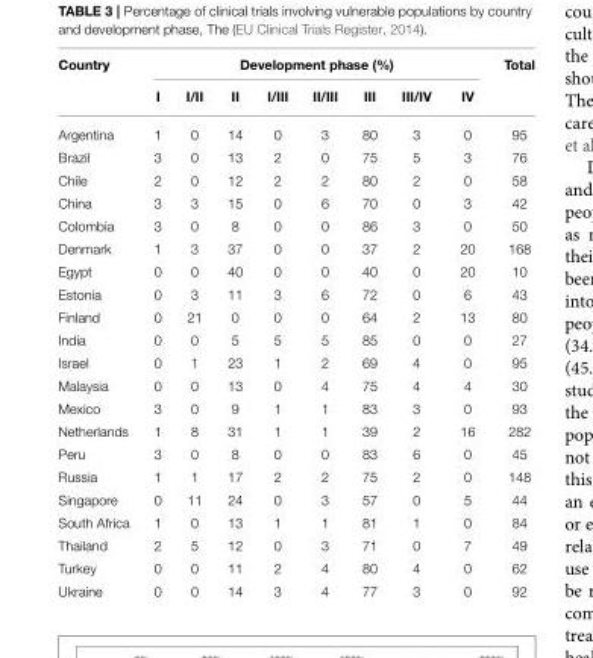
<table><thead><tr><td rowspan="2">Country</td><td colspan="8">Development phase (%)</td><td rowspan="2">Total</td></tr><tr><td>I</td><td>I/II</td><td>II</td><td>I/III</td><td>II/III</td><td>III</td><td>III/IV</td><td>IV</td></tr></thead><tbody><tr><td>Argentina</td><td>1</td><td>0</td><td>14</td><td>0</td><td>3</td><td>80</td><td>3</td><td>0</td><td>95</td></tr><tr><td>Brazil</td><td>3</td><td>0</td><td>13</td><td>2</td><td>0</td><td>75</td><td>5</td><td>3</td><td>76</td></tr><tr><td>Chile</td><td>2</td><td>0</td><td>12</td><td>2</td><td>2</td><td>80</td><td>2</td><td>0</td><td>58</td></tr><tr><td>China</td><td>3</td><td>3</td><td>15</td><td>0</td><td>6</td><td>70</td><td>0</td><td>3</td><td>42</td></tr><tr><td>Colombia</td><td>3</td><td>0</td><td>8</td><td>0</td><td>0</td><td>86</td><td>3</td><td>0</td><td>50</td></tr><tr><td>Denmark</td><td>1</td><td>3</td><td>37</td><td>0</td><td>0</td><td>37</td><td>2</td><td>20</td><td>168</td></tr><tr><td>Egypt</td><td>0</td><td>0</td><td>40</td><td>0</td><td>0</td><td>40</td><td>0</td><td>20</td><td>10</td></tr><tr><td>Estonia</td><td>0</td><td>3</td><td>11</td><td>3</td><td>6</td><td>72</td><td>0</td><td>6</td><td>43</td></tr><tr><td>Finland</td><td>0</td><td>21</td><td>0</td><td>0</td><td>0</td><td>64</td><td>2</td><td>13</td><td>80</td></tr><tr><td>India</td><td>0</td><td>0</td><td>5</td><td>5</td><td>5</td><td>85</td><td>0</td><td>0</td><td>27</td></tr><tr><td>Israel</td><td>0</td><td>1</td><td>23</td><td>1</td><td>2</td><td>69</td><td>4</td><td>0</td><td>95</td></tr><tr><td>Malaysia</td><td>0</td><td>0</td><td>13</td><td>0</td><td>4</td><td>75</td><td>4</td><td>4</td><td>30</td></tr><tr><td>Mexico</td><td>3</td><td>0</td><td>9</td><td>1</td><td>1</td><td>83</td><td>3</td><td>0</td><td>93</td></tr><tr><td>Netherlands</td><td>1</td><td>8</td><td>31</td><td>1</td><td>1</td><td>39</td><td>2</td><td>16</td><td>282</td></tr><tr><td>Peru</td><td>3</td><td>0</td><td>8</td><td>0</td><td>0</td><td>83</td><td>6</td><td>0</td><td>45</td></tr><tr><td>Russia</td><td>1</td><td>1</td><td>17</td><td>2</td><td>2</td><td>75</td><td>2</td><td>0</td><td>148</td></tr><tr><td>Singapore</td><td>0</td><td>11</td><td>24</td><td>0</td><td>3</td><td>57</td><td>0</td><td>5</td><td>44</td></tr><tr><td>South Africa</td><td>1</td><td>0</td><td>13</td><td>1</td><td>1</td><td>81</td><td>1</td><td>0</td><td>84</td></tr><tr><td>Thailand</td><td>2</td><td>5</td><td>12</td><td>0</td><td>3</td><td>71</td><td>0</td><td>7</td><td>49</td></tr><tr><td>Turkey</td><td>0</td><td>0</td><td>11</td><td>2</td><td>4</td><td>80</td><td>4</td><td>0</td><td>62</td></tr><tr><td>Ukraine</td><td>0</td><td>0</td><td>14</td><td>3</td><td>4</td><td>77</td><td>3</td><td>0</td><td>92</td></tr></tbody></table>